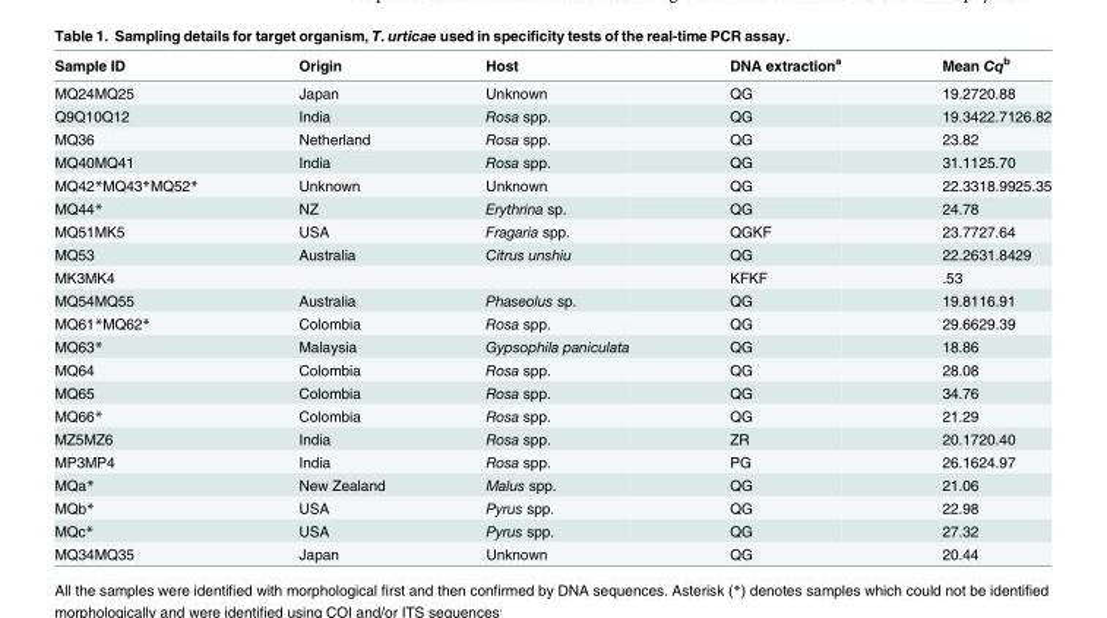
<table><thead><tr><td>Sample ID</td><td>Origin</td><td>Host</td><td>DNA extraction<sup>a</sup></td><td>Mean Cq<sup>b</sup></td></tr></thead><tbody><tr><td>MQ24MQ25</td><td>Japan</td><td>Unknown</td><td>QG</td><td>19.2720.88</td></tr><tr><td>Q9Q10Q12</td><td>India</td><td>Rosa spp.</td><td>QG</td><td>19.3422.7126.82</td></tr><tr><td>MQ36</td><td>Netherland</td><td>Rosa spp.</td><td>QG</td><td>23.82</td></tr><tr><td>MQ40MQ41</td><td>India</td><td>Rosa spp.</td><td>QG</td><td>31.1125.70</td></tr><tr><td>MQ42*MQ43*MQ52*</td><td>Unknown</td><td>Unknown</td><td>QG</td><td>22.3318.9925.35</td></tr><tr><td>MQ44*</td><td>NZ</td><td>Erythrina sp.</td><td>QG</td><td>24.78</td></tr><tr><td>MQ51MK5</td><td>USA</td><td>Fragaria spp.</td><td>QGKF</td><td>23.7727.64</td></tr><tr><td>MQ53</td><td>Australia</td><td>Citrus unshiu</td><td>QG</td><td>22.2631.8429</td></tr><tr><td>MK3MK4</td><td></td><td></td><td>KFKF</td><td>.53</td></tr><tr><td>MQ54MQ55</td><td>Australia</td><td>Phaseolus sp.</td><td>QG</td><td>19.8116.91</td></tr><tr><td>MQ61*MQ62*</td><td>Colombia</td><td>Rosa spp.</td><td>QG</td><td>29.6629.39</td></tr><tr><td>MQ63*</td><td>Malaysia</td><td>Gypsophila paniculata</td><td>QG</td><td>18.86</td></tr><tr><td>MQ64</td><td>Colombia</td><td>Rosa spp.</td><td>QG</td><td>28.08</td></tr><tr><td>MQ65</td><td>Colombia</td><td>Rosa spp.</td><td>QG</td><td>34.76</td></tr><tr><td>MQ66*</td><td>Colombia</td><td>Rosa spp.</td><td>QG</td><td>21.29</td></tr><tr><td>MZ5MZ6</td><td>India</td><td>Rosa spp.</td><td>ZR</td><td>20.1720.40</td></tr><tr><td>MP3MP4</td><td>India</td><td>Rosa spp.</td><td>PG</td><td>26.1624.97</td></tr><tr><td>MQa*</td><td>New Zealand</td><td>Malus spp.</td><td>QG</td><td>21.06</td></tr><tr><td>MQb*</td><td>USA</td><td>Pyrus spp.</td><td>QG</td><td>22.98</td></tr><tr><td>MQc*</td><td>USA</td><td>Pyrus spp.</td><td>QG</td><td>27.32</td></tr><tr><td>MQ34MQ35</td><td>Japan</td><td>Unknown</td><td>QG</td><td>20.44</td></tr></tbody></table>